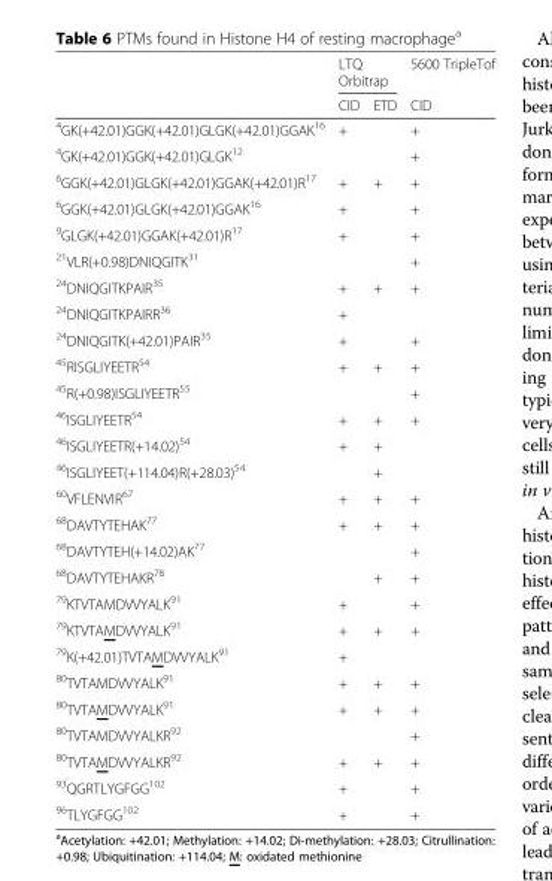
<table><thead><tr><td rowspan="2"></td><td colspan="2">LTQ Orbitrap</td><td rowspan="2">5600 TripleTof CID</td></tr><tr><td>CID</td><td>ETD</td></tr></thead><tbody><tr><td><sup>4</sup>GK(+42.01)GGK(+42.01)GLGK(+42.01)GGAK<sup>16</sup></td><td>+</td><td></td><td>+</td></tr><tr><td><sup>4</sup>GK(+42.01)GGK(+42.01)GLGK<sup>12</sup></td><td></td><td></td><td>+</td></tr><tr><td><sup>6</sup>GGK(+42.01)GLGK(+42.01)GGAK(+42.01)R<sup>17</sup></td><td>+</td><td>+</td><td>+</td></tr><tr><td><sup>6</sup>GGK(+42.01)GLGK(+42.01)GGAK<sup>16</sup></td><td>+</td><td></td><td>+</td></tr><tr><td><sup>9</sup>GLGK(+42.01)GGAK(+42.01)R<sup>17</sup></td><td>+</td><td></td><td>+</td></tr><tr><td><sup>21</sup>VLR(+0.98)DNIQGITK<sup>31</sup></td><td></td><td></td><td>+</td></tr><tr><td><sup>24</sup>DNIQGITKPAIR<sup>35</sup></td><td>+</td><td>+</td><td>+</td></tr><tr><td><sup>24</sup>DNIQGITKPAIRR<sup>36</sup></td><td>+</td><td></td><td></td></tr><tr><td><sup>24</sup>DNIQGITK(+42.01)PAIR<sup>35</sup></td><td>+</td><td></td><td>+</td></tr><tr><td><sup>45</sup>RISGLIYEETR<sup>54</sup></td><td>+</td><td>+</td><td>+</td></tr><tr><td><sup>45</sup>R(+0.98)ISGLIYEETR<sup>55</sup></td><td></td><td></td><td>+</td></tr><tr><td><sup>46</sup>ISGLIYEETR<sup>54</sup></td><td>+</td><td>+</td><td>+</td></tr><tr><td><sup>46</sup>ISGLIYEETR(+14.02)<sup>54</sup></td><td>+</td><td>+</td><td></td></tr><tr><td><sup>46</sup>ISGLIYEET(+114.04)R(+28.03)<sup>54</sup></td><td></td><td>+</td><td></td></tr><tr><td><sup>60</sup>VFLENVIR<sup>67</sup></td><td>+</td><td>+</td><td>+</td></tr><tr><td><sup>68</sup>DAVTYTEHAK<sup>77</sup></td><td>+</td><td>+</td><td>+</td></tr><tr><td><sup>68</sup>DAVTYTEH(+14.02)AK<sup>77</sup></td><td></td><td></td><td>+</td></tr><tr><td><sup>68</sup>DAVTYTEHAKR<sup>78</sup></td><td></td><td>+</td><td>+</td></tr><tr><td><sup>79</sup>KTVTAMDVVYALK<sup>91</sup></td><td>+</td><td></td><td>+</td></tr><tr><td><sup>79</sup>KTVTAMDVVYALK<sup>91</sup></td><td>+</td><td>+</td><td>+</td></tr><tr><td><sup>79</sup>K(+42.01)TVTAMDVVYALK<sup>91</sup></td><td>+</td><td></td><td></td></tr><tr><td><sup>80</sup>TVTAMDVVYALK<sup>91</sup></td><td>+</td><td>+</td><td>+</td></tr><tr><td><sup>80</sup>TVTAMDVVYALK<sup>91</sup></td><td>+</td><td>+</td><td>+</td></tr><tr><td><sup>80</sup>TVTAMDVVYALKR<sup>92</sup></td><td></td><td></td><td>+</td></tr><tr><td><sup>80</sup>TVTAMDVVYALKR<sup>92</sup></td><td>+</td><td>+</td><td>+</td></tr><tr><td><sup>93</sup>QGRTLYGFGG<sup>102</sup></td><td>+</td><td></td><td>+</td></tr><tr><td><sup>96</sup>TLYGFGG<sup>102</sup></td><td>+</td><td></td><td>+</td></tr></tbody></table>